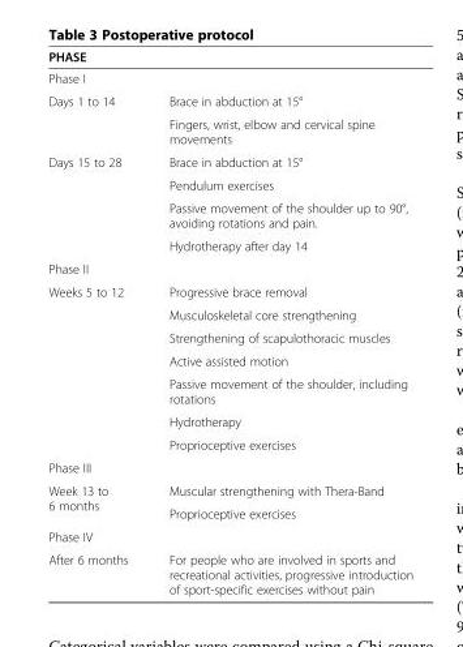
<table><thead><tr><td>PHASE</td><td></td></tr></thead><tbody><tr><td colspan="2">Phase I</td></tr><tr><td rowspan="2">Days 1 to 14</td><td>Brace in abduction at 15°</td></tr><tr><td>Fingers, wrist, elbow and cervical spine movements</td></tr><tr><td rowspan="4">Days 15 to 28</td><td>Brace in abduction at 15°</td></tr><tr><td>Pendulum exercises</td></tr><tr><td>Passive movement of the shoulder up to 90°, avoiding rotations and pain.</td></tr><tr><td>Hydrotherapy after day 14</td></tr><tr><td colspan="2">Phase II</td></tr><tr><td rowspan="7">Weeks 5 to 12</td><td>Progressive brace removal</td></tr><tr><td>Musculoskeletal core strengthening</td></tr><tr><td>Strengthening of scapulothoracic muscles</td></tr><tr><td>Active assisted motion</td></tr><tr><td>Passive movement of the shoulder, including rotations</td></tr><tr><td>Hydrotherapy</td></tr><tr><td>Proprioceptive exercises</td></tr><tr><td colspan="2">Phase III</td></tr><tr><td rowspan="2">Week 13 to 6 months</td><td>Muscular strengthening with Thera-Band</td></tr><tr><td>Proprioceptive exercises</td></tr><tr><td colspan="2">Phase IV</td></tr><tr><td>After 6 months</td><td>For people who are involved in sports and recreational activities, progressive introduction of sport-specific exercises without pain</td></tr></tbody></table>